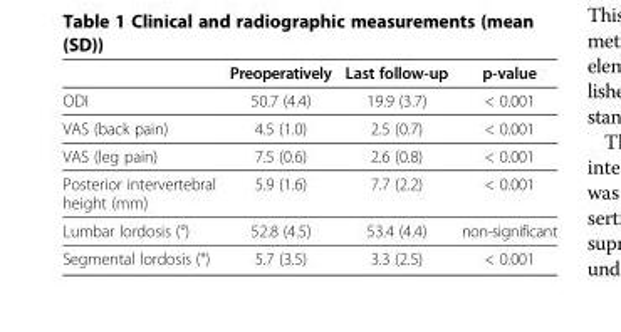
<table><thead><tr><td></td><td>Preoperatively</td><td>Last follow-up</td><td>p-value</td></tr></thead><tbody><tr><td>ODI</td><td>50.7 (4.4)</td><td>19.9 (3.7)</td><td>&lt; 0.001</td></tr><tr><td>VAS (back pain)</td><td>4.5 (1.0)</td><td>2.5 (0.7)</td><td>&lt; 0.001</td></tr><tr><td>VAS (leg pain)</td><td>7.5 (0.6)</td><td>2.6 (0.8)</td><td>&lt; 0.001</td></tr><tr><td>Posterior intervertebral height (mm)</td><td>5.9 (1.6)</td><td>7.7 (2.2)</td><td>&lt; 0.001</td></tr><tr><td>Lumbar lordosis (°)</td><td>52.8 (4.5)</td><td>53.4 (4.4)</td><td>non-significant</td></tr><tr><td>Segmental lordosis (°)</td><td>5.7 (3.5)</td><td>3.3 (2.5)</td><td>&lt; 0.001</td></tr></tbody></table>